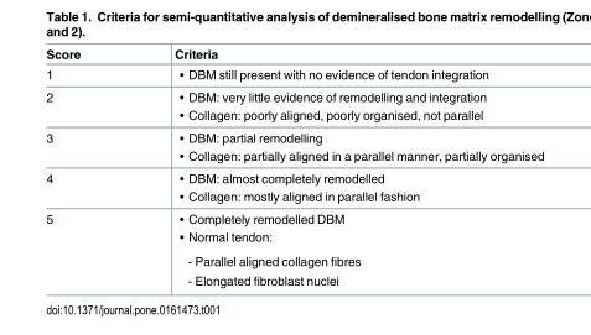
<table><thead><tr><td>Score</td><td>Criteria</td></tr></thead><tbody><tr><td>1</td><td>• DBM still present with no evidence of tendon integration</td></tr><tr><td>2</td><td>• DBM: very little evidence of remodelling and integration • Collagen: poorly aligned, poorly organised, not parallel</td></tr><tr><td>3</td><td>• DBM: partial remodelling • Collagen: partially aligned in a parallel manner, partially organised</td></tr><tr><td>4</td><td>• DBM: almost completely remodelled • Collagen: mostly aligned in parallel fashion</td></tr><tr><td>5</td><td>• Completely remodelled DBM • Normal tendon: - Parallel aligned collagen fibres - Elongated fibroblast nuclei</td></tr></tbody></table>